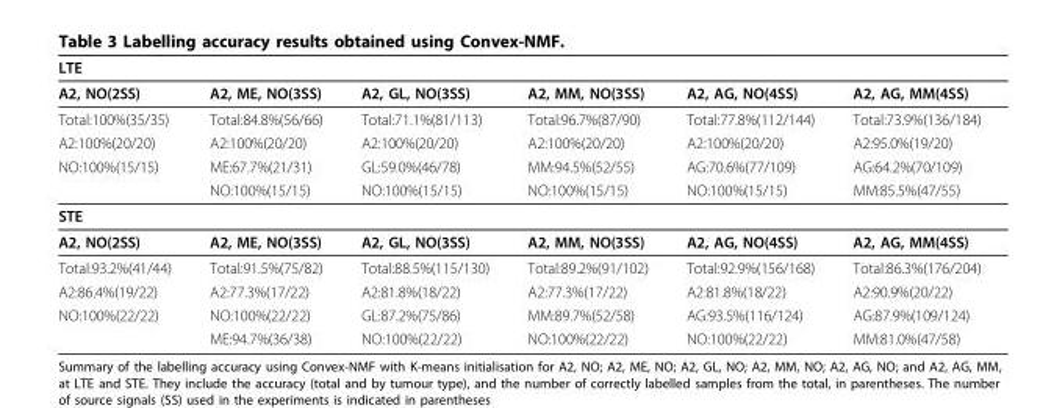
<table><thead><tr><td colspan="6">LTE</td></tr><tr><td>A2, NO(2SS)</td><td>A2, ME, NO(3SS)</td><td>A2, GL, NO(3SS)</td><td>A2, MM, NO(3SS)</td><td>A2, AG, NO(4SS)</td><td>A2, AG, MM(4SS)</td></tr></thead><tbody><tr><td>Total:100%(35/35)</td><td>Total:84.8%(56/66)</td><td>Total:71.1%(81/113)</td><td>Total:96.7%(87/90)</td><td>Total:77.8%(112/144)</td><td>Total:73.9%(136/184)</td></tr><tr><td>A2:100%(20/20)</td><td>A2:100%(20/20)</td><td>A2:100%(20/20)</td><td>A2:100%(20/20)</td><td>A2:100%(20/20)</td><td>A2:95.0%(19/20)</td></tr><tr><td rowspan="2">NO:100%(15/15)</td><td>ME:67.7%(21/31)</td><td>GL:59.0%(46/78)</td><td>MM:94.5%(52/55)</td><td>AG:70.6%(77/109)</td><td>AG:64.2%(70/109)</td></tr><tr><td>NO:100%(15/15)</td><td>NO:100%(15/15)</td><td>NO:100%(15/15)</td><td>NO:100%(15/15)</td><td>MM:85.5%(47/55)</td></tr><tr><td colspan="6">STE</td></tr><tr><td>A2, NO(2SS)</td><td>A2, ME, NO(3SS)</td><td>A2, GL, NO(3SS)</td><td>A2, MM, NO(3SS)</td><td>A2, AG, NO(4SS)</td><td>A2, AG, MM(4SS)</td></tr><tr><td>Total:93.2%(41/44)</td><td>Total:91.5%(75/82)</td><td>Total:88.5%(115/130)</td><td>Total:89.2%(91/102)</td><td>Total:92.9%(156/168)</td><td>Total:86.3%(176/204)</td></tr><tr><td>A2:86.4%(19/22)</td><td>A2:77.3%(17/22)</td><td>A2:81.8%(18/22)</td><td>A2:77.3%(17/22)</td><td>A2:81.8%(18/22)</td><td>A2:90.9%(20/22)</td></tr><tr><td rowspan="2">NO:100%(22/22)</td><td>NO:100%(22/22)</td><td>GL:87.2%(75/86)</td><td>MM:89.7%(52/58)</td><td>AG:93.5%(116/124)</td><td>AG:87.9%(109/124)</td></tr><tr><td>ME:94.7%(36/38)</td><td>NO:100%(22/22)</td><td>NO:100%(22/22)</td><td>NO:100%(22/22)</td><td>MM:81.0%(47/58)</td></tr></tbody></table>